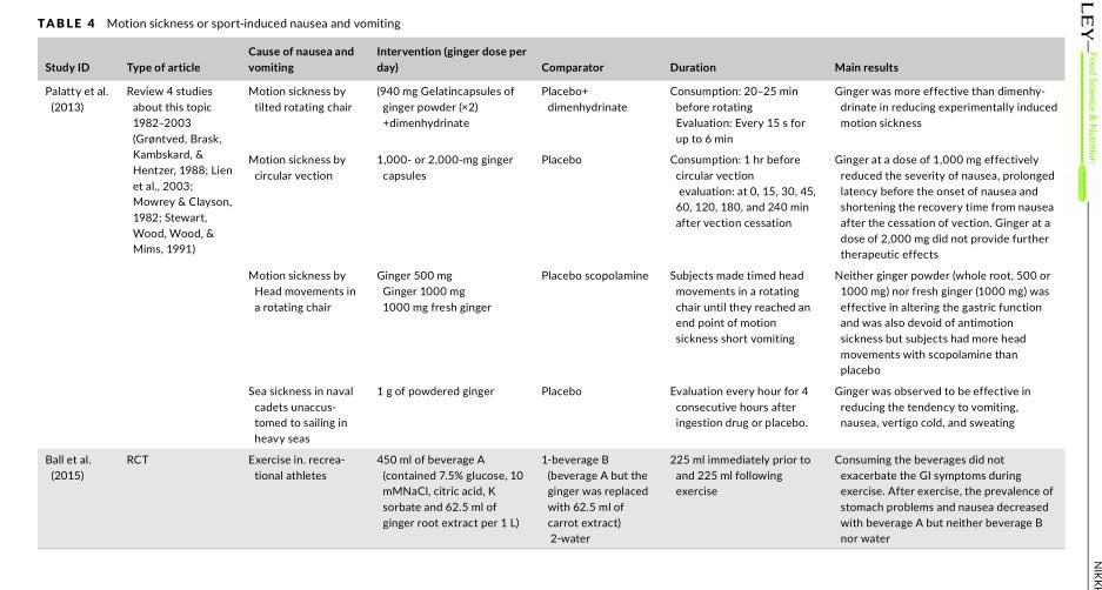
<table><thead><tr><td>Study ID</td><td>Type of article</td><td>Cause of nausea and vomiting</td><td>Intervention (ginger dose per day)</td><td>Comparator</td><td>Duration</td><td>Main results</td></tr></thead><tbody><tr><td rowspan="4">Palatty et al. (2013)</td><td rowspan="4">Review 4 studies about this topic 1982–2003 (Grøntved, Brask, Kambskard, &amp; Hentzer, 1988; Lien et al., 2003; Mowrey &amp; Clayson, 1982; Stewart, Wood, Wood, &amp; Mims, 1991)</td><td>Motion sickness by tilted rotating chair</td><td>(940 mg Gelatincapsules of ginger powder (×2) +dimenhydrinate</td><td>Placebo+ dimenhydrinate</td><td>Consumption: 20–25 min before rotating Evaluation: Every 15 s for up to 6 min</td><td>Ginger was more effective than dimenhy- drinate in reducing experimentally induced motion sickness</td></tr><tr><td>Motion sickness by circular vection</td><td>1,000- or 2,000- mg ginger capsules</td><td>Placebo</td><td>Consumption: 1 hr before circular vection evaluation: at 0, 15, 30, 45, 60, 120, 180, and 240 min after vection cessation</td><td>Ginger at a dose of 1,000 mg effectively reduced the severity of nausea, prolonged latency before the onset of nausea and shortening the recovery time from nausea after the cessation of vection. Ginger at a dose of 2,000 mg did not provide further therapeutic effects</td></tr><tr><td>Motion sickness by Head movements in a rotating chair</td><td>Ginger 500 mg Ginger 1000 mg 1000 mg fresh ginger</td><td>Placebo scopolamine</td><td>Subjects made timed head movements in a rotating chair until they reached an end point of motion sickness short vomiting</td><td>Neither ginger powder (whole root, 500 or 1000 mg) nor fresh ginger (1000 mg) was effective in altering the gastric function and was also devoid of antimotion sickness but subjects had more head movements with scopolamine than placebo</td></tr><tr><td>Sea sickness in naval cadets unaccus- tomed to sailing in heavy seas</td><td>1 g of powdered ginger</td><td>Placebo</td><td>Evaluation every hour for 4 consecutive hours after ingestion drug or placebo.</td><td>Ginger was observed to be effective in reducing the tendency to vomiting, nausea, vertigo cold, and sweating</td></tr><tr><td>Ball et al. (2015)</td><td>RCT</td><td>Exercise in. recrea- tional athletes</td><td>450 ml of beverage A (contained 7.5% glucose, 10 mMNaCl, citric acid, K sorbate and 62.5 ml of ginger root extract per 1 L)</td><td>1- beverage B (beverage A but the ginger was replaced with 62.5 ml of carrot extract) 2- water</td><td>225 ml immediately prior to and 225 ml following exercise</td><td>Consuming the beverages did not exacerbate the GI symptoms during exercise. After exercise, the prevalence of stomach problems and nausea decreased with beverage A but neither beverage B nor water</td></tr></tbody></table>